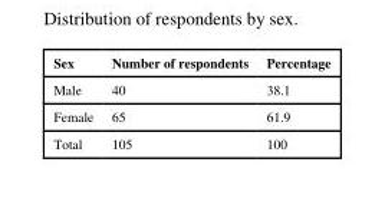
<table><thead><tr><td>Sex</td><td>Number of respondents</td><td>Percentage</td></tr></thead><tbody><tr><td>Male</td><td>40</td><td>38.1</td></tr><tr><td>Female</td><td>65</td><td>61.9</td></tr><tr><td>Total</td><td>105</td><td>100</td></tr></tbody></table>